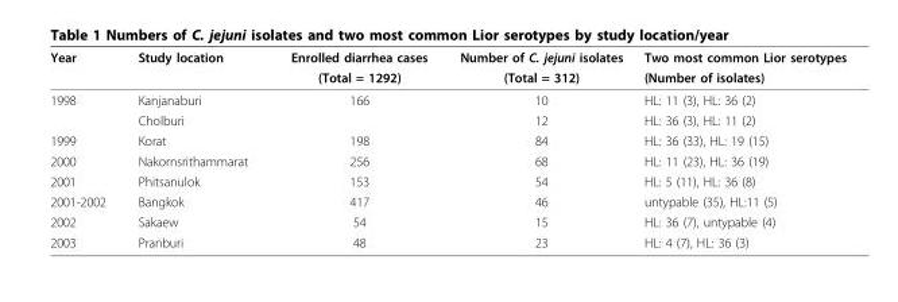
<table><thead><tr><td rowspan="2">Year</td><td rowspan="2">Study location</td><td rowspan="2">Enrolled diarrhea cases (Total = 1292)</td><td rowspan="2">Number of C. jejuni isolates (Total = 312)</td><td rowspan="2">Two most common Lior serotypes (Number of isolates)</td></tr><tr></tr></thead><tbody><tr><td rowspan="2">1998</td><td>Kanjanaburi</td><td>166</td><td>10</td><td>HL: 11 (3), HL: 36 (2)</td></tr><tr><td>Cholburi</td><td></td><td>12</td><td>HL: 36 (3), HL: 11 (2)</td></tr><tr><td>1999</td><td>Korat</td><td>198</td><td>84</td><td>HL: 36 (33), HL: 19 (15)</td></tr><tr><td>2000</td><td>Nakornsrithammarat</td><td>256</td><td>68</td><td>HL: 11 (23), HL: 36 (19)</td></tr><tr><td>2001</td><td>Phitsanulok</td><td>153</td><td>54</td><td>HL: 5 (11), HL: 36 (8)</td></tr><tr><td>2001-2002</td><td>Bangkok</td><td>417</td><td>46</td><td>untypable (35), HL:11 (5)</td></tr><tr><td>2002</td><td>Sakaew</td><td>54</td><td>15</td><td>HL: 36 (7), untypable (4)</td></tr><tr><td>2003</td><td>Pranburi</td><td>48</td><td>23</td><td>HL: 4 (7), HL: 36 (3)</td></tr></tbody></table>